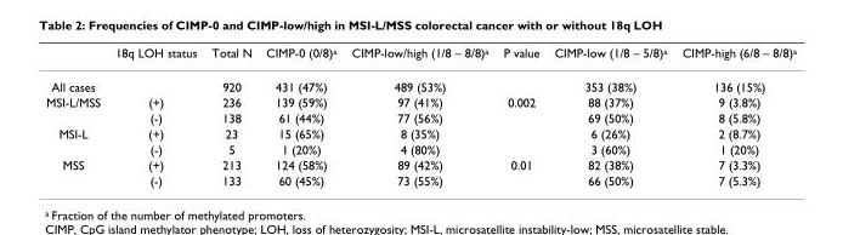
<table><thead><tr><td></td><td>18q LOH status</td><td>Total N</td><td>CIMP-0 (0/8)a</td><td>CIMP-low/high (1/8 – 8/8)a</td><td>P value</td><td>CIMP-low (1/8 – 5/8)a</td><td>CIMP-high (6/8 – 8/8)a</td></tr></thead><tbody><tr><td>All cases</td><td></td><td>920</td><td>431 (47%)</td><td>489 (53%)</td><td></td><td>353 (38%)</td><td>136 (15%)</td></tr><tr><td rowspan="2">MSI-L/MSS</td><td>(+)</td><td>236</td><td>139 (59%)</td><td>97 (41%)</td><td>0.002</td><td>88 (37%)</td><td>9 (3.8%)</td></tr><tr><td>(-)</td><td>138</td><td>61 (44%)</td><td>77 (56%)</td><td></td><td>69 (50%)</td><td>8 (5.8%)</td></tr><tr><td rowspan="2">MSI-L</td><td>(+)</td><td>23</td><td>15 (65%)</td><td>8 (35%)</td><td></td><td>6 (26%)</td><td>2 (8.7%)</td></tr><tr><td>(-)</td><td>5</td><td>1 (20%)</td><td>4 (80%)</td><td></td><td>3 (60%)</td><td>1 (20%)</td></tr><tr><td rowspan="2">MSS</td><td>(+)</td><td>213</td><td>124 (58%)</td><td>89 (42%)</td><td>0.01</td><td>82 (38%)</td><td>7 (3.3%)</td></tr><tr><td>(-)</td><td>133</td><td>60 (45%)</td><td>73 (55%)</td><td></td><td>66 (50%)</td><td>7 (5.3%)</td></tr></tbody></table>